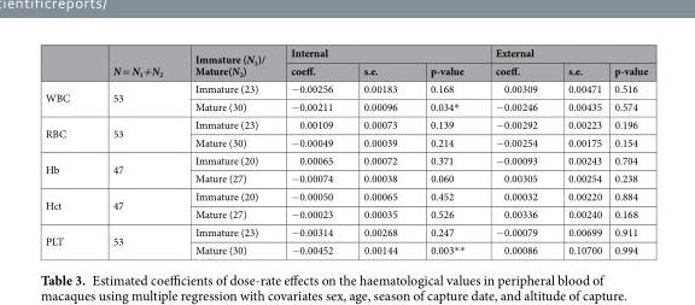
<table><thead><tr><td rowspan="2"></td><td rowspan="2">N = N<sub>1</sub>+N<sub>2</sub></td><td rowspan="2">Immature (N<sub>1</sub>)/ Mature(N<sub>2</sub>)</td><td colspan="3">Internal</td><td colspan="3">External</td></tr><tr><td>coeff.</td><td>s.e.</td><td>p-value</td><td>coeff.</td><td>s.e.</td><td>p-value</td></tr></thead><tbody><tr><td rowspan="2">WBC</td><td rowspan="2">53</td><td>Immature (23)</td><td>−0.00256</td><td>0.00183</td><td>0.168</td><td>0.00309</td><td>0.00471</td><td>0.516</td></tr><tr><td>Mature (30)</td><td>−0.00211</td><td>0.00096</td><td>0.034*</td><td>−0.00246</td><td>0.00435</td><td>0.574</td></tr><tr><td rowspan="2">RBC</td><td rowspan="2">53</td><td>Immature (23)</td><td>0.00109</td><td>0.00073</td><td>0.139</td><td>−0.00292</td><td>0.00223</td><td>0.196</td></tr><tr><td>Mature (30)</td><td>−0.00049</td><td>0.00039</td><td>0.214</td><td>−0.00254</td><td>0.00175</td><td>0.154</td></tr><tr><td rowspan="2">Hb</td><td rowspan="2">47</td><td>Immature (20)</td><td>0.00065</td><td>0.00072</td><td>0.371</td><td>−0.00093</td><td>0.00243</td><td>0.704</td></tr><tr><td>Mature (27)</td><td>−0.00074</td><td>0.00038</td><td>0.060</td><td>0.00305</td><td>0.00254</td><td>0.238</td></tr><tr><td rowspan="2">Hct</td><td rowspan="2">47</td><td>Immature (20)</td><td>−0.00050</td><td>0.00065</td><td>0.452</td><td>0.00032</td><td>0.00220</td><td>0.884</td></tr><tr><td>Mature (27)</td><td>−0.00023</td><td>0.00035</td><td>0.526</td><td>0.00336</td><td>0.00240</td><td>0.168</td></tr><tr><td rowspan="2">PLT</td><td rowspan="2">53</td><td>Immature (23)</td><td>−0.00314</td><td>0.00268</td><td>0.247</td><td>−0.00079</td><td>0.00699</td><td>0.911</td></tr><tr><td>Mature (30)</td><td>−0.00452</td><td>0.00144</td><td>0.003**</td><td>0.00086</td><td>0.10700</td><td>0.994</td></tr></tbody></table>